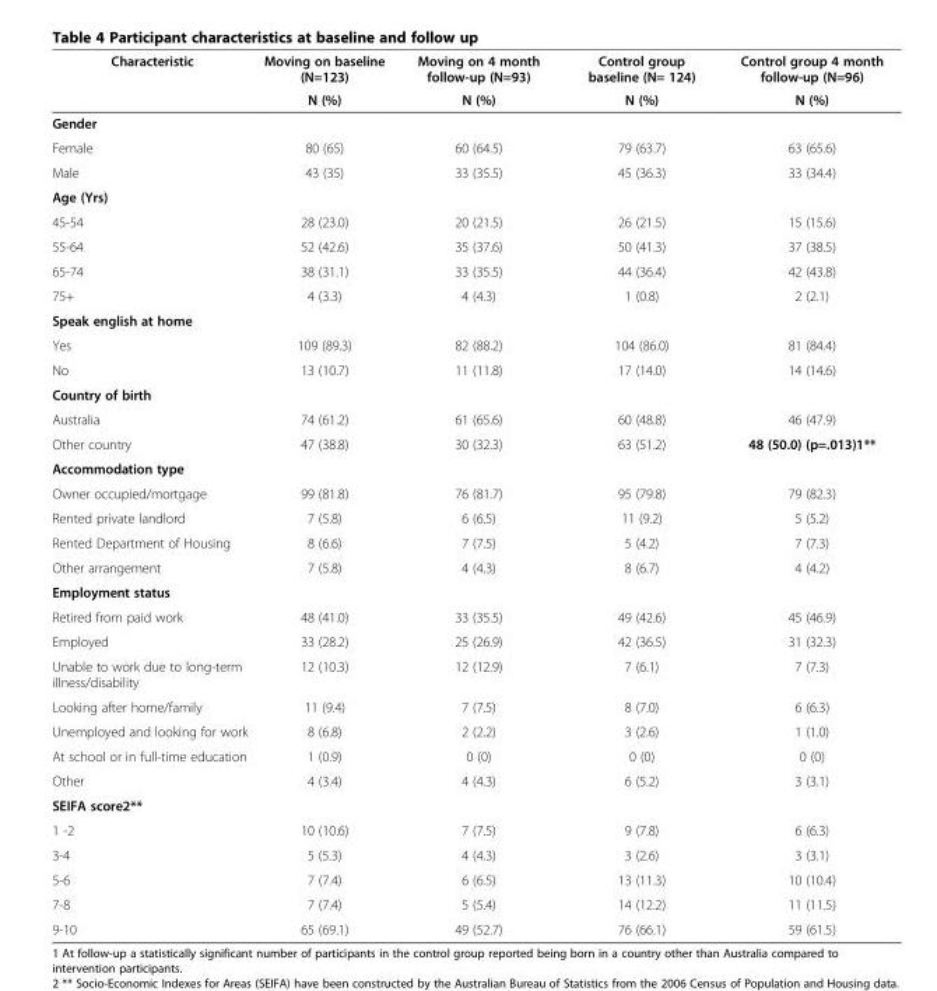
<table><thead><tr><td rowspan="2">Characteristic</td><td rowspan="2">Moving on baseline (N=123) N (%)</td><td rowspan="2">Moving on 4 month follow-up (N=93) N (%)</td><td rowspan="2">Control group baseline (N= 124) N (%)</td><td rowspan="2">Control group 4 month follow-up (N=96) N (%)</td></tr><tr></tr></thead><tbody><tr><td colspan="5">Gender</td></tr><tr><td>Female</td><td>80 (65)</td><td>60 (64.5)</td><td>79 (63.7)</td><td>63 (65.6)</td></tr><tr><td>Male</td><td>43 (35)</td><td>33 (35.5)</td><td>45 (36.3)</td><td>33 (34.4)</td></tr><tr><td colspan="5">Age (Yrs)</td></tr><tr><td>45-54</td><td>28 (23.0)</td><td>20 (21.5)</td><td>26 (21.5)</td><td>15 (15.6)</td></tr><tr><td>55-64</td><td>52 (42.6)</td><td>35 (37.6)</td><td>50 (41.3)</td><td>37 (38.5)</td></tr><tr><td>65-74</td><td>38 (31.1)</td><td>33 (35.5)</td><td>44 (36.4)</td><td>42 (43.8)</td></tr><tr><td>75+</td><td>4 (3.3)</td><td>4 (4.3)</td><td>1 (0.8)</td><td>2 (2.1)</td></tr><tr><td colspan="5">Speak english at home</td></tr><tr><td>Yes</td><td>109 (89.3)</td><td>82 (88.2)</td><td>104 (86.0)</td><td>81 (84.4)</td></tr><tr><td>No</td><td>13 (10.7)</td><td>11 (11.8)</td><td>17 (14.0)</td><td>14 (14.6)</td></tr><tr><td colspan="5">Country of birth</td></tr><tr><td>Australia</td><td>74 (61.2)</td><td>61 (65.6)</td><td>60 (48.8)</td><td>46 (47.9)</td></tr><tr><td>Other country</td><td>47 (38.8)</td><td>30 (32.3)</td><td>63 (51.2)</td><td>48 (50.0) (p=.013)1**</td></tr><tr><td colspan="5">Accommodation type</td></tr><tr><td>Owner occupied/mortgage</td><td>99 (81.8)</td><td>76 (81.7)</td><td>95 (79.8)</td><td>79 (82.3)</td></tr><tr><td>Rented private landlord</td><td>7 (5.8)</td><td>6 (6.5)</td><td>11 (9.2)</td><td>5 (5.2)</td></tr><tr><td>Rented Department of Housing</td><td>8 (6.6)</td><td>7 (7.5)</td><td>5 (4.2)</td><td>7 (7.3)</td></tr><tr><td>Other arrangement</td><td>7 (5.8)</td><td>4 (4.3)</td><td>8 (6.7)</td><td>4 (4.2)</td></tr><tr><td colspan="5">Employment status</td></tr><tr><td>Retired from paid work</td><td>48 (41.0)</td><td>33 (35.5)</td><td>49 (42.6)</td><td>45 (46.9)</td></tr><tr><td>Employed</td><td>33 (28.2)</td><td>25 (26.9)</td><td>42 (36.5)</td><td>31 (32.3)</td></tr><tr><td>Unable to work due to long-term illness/disability</td><td>12 (10.3)</td><td>12 (12.9)</td><td>7 (6.1)</td><td>7 (7.3)</td></tr><tr><td>Looking after home/family</td><td>11 (9.4)</td><td>7 (7.5)</td><td>8 (7.0)</td><td>6 (6.3)</td></tr><tr><td>Unemployed and looking for work</td><td>8 (6.8)</td><td>2 (2.2)</td><td>3 (2.6)</td><td>1 (1.0)</td></tr><tr><td>At school or in full-time education</td><td>1 (0.9)</td><td>0 (0)</td><td>0 (0)</td><td>0 (0)</td></tr><tr><td>Other</td><td>4 (3.4)</td><td>4 (4.3)</td><td>6 (5.2)</td><td>3 (3.1)</td></tr><tr><td colspan="5">SEIFA score2**</td></tr><tr><td>1 -2</td><td>10 (10.6)</td><td>7 (7.5)</td><td>9 (7.8)</td><td>6 (6.3)</td></tr><tr><td>3-4</td><td>5 (5.3)</td><td>4 (4.3)</td><td>3 (2.6)</td><td>3 (3.1)</td></tr><tr><td>5-6</td><td>7 (7.4)</td><td>6 (6.5)</td><td>13 (11.3)</td><td>10 (10.4)</td></tr><tr><td>7-8</td><td>7 (7.4)</td><td>5 (5.4)</td><td>14 (12.2)</td><td>11 (11.5)</td></tr><tr><td>9-10</td><td>65 (69.1)</td><td>49 (52.7)</td><td>76 (66.1)</td><td>59 (61.5)</td></tr></tbody></table>